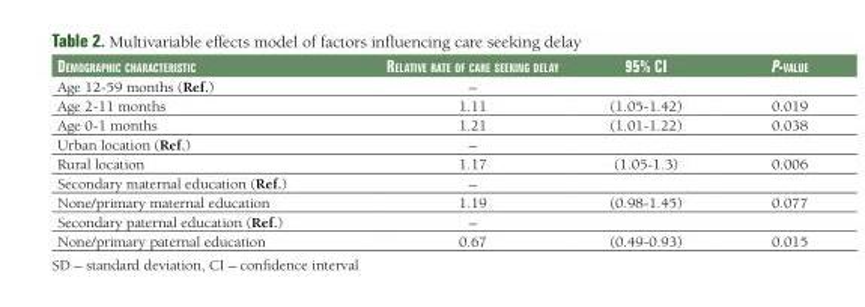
<table><thead><tr><td>DemograPhiC CharaCteristiC</td><td>relative rate of Care seeking Delay</td><td>95% Ci</td><td>P-value</td></tr></thead><tbody><tr><td>Age 12-59 months (Ref.)</td><td>–</td><td></td><td></td></tr><tr><td>Age 2-11 months</td><td>1.11</td><td>(1.05-1.42)</td><td>0.019</td></tr><tr><td>Age 0-1 months</td><td>1.21</td><td>(1.01-1.22)</td><td>0.038</td></tr><tr><td>Urban location (Ref.)</td><td>–</td><td></td><td></td></tr><tr><td>Rural location</td><td>1.17</td><td>(1.05-1.3)</td><td>0.006</td></tr><tr><td>Secondary maternal education (Ref.)</td><td>–</td><td></td><td></td></tr><tr><td>None/primary maternal education</td><td>1.19</td><td>(0.98-1.45)</td><td>0.077</td></tr><tr><td>Secondary paternal education (Ref.)</td><td>–</td><td></td><td></td></tr><tr><td>None/primary paternal education</td><td>0.67</td><td>(0.49-0.93)</td><td>0.015</td></tr></tbody></table>